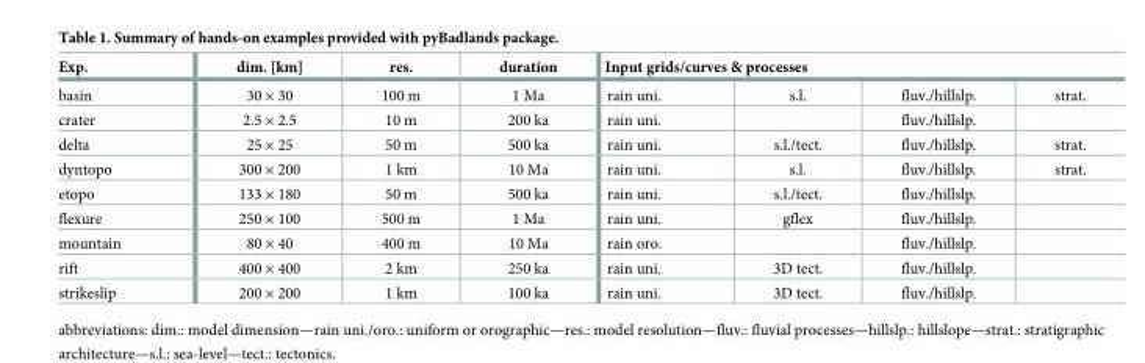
<table><thead><tr><td rowspan="2">Exp. basin</td><td rowspan="2">dim. [km] 30 × 30</td><td rowspan="2">res. 100 m</td><td rowspan="2">duration 1 Ma</td><td colspan="4">Input grids/curves &amp; processes</td></tr><tr><td>rain uni.</td><td>s.l.</td><td>fluv./hillslp.</td><td>strat.</td></tr></thead><tbody><tr><td>crater</td><td>2.5 × 2.5</td><td>10 m</td><td>200 ka</td><td>rain uni.</td><td></td><td>fluv./hillslp.</td><td></td></tr><tr><td>delta</td><td>25 × 25</td><td>50 m</td><td>500 ka</td><td>rain uni.</td><td>s.l./tect.</td><td>fluv./hillslp.</td><td>strat.</td></tr><tr><td>dyntopo</td><td>300 × 200</td><td>1 km</td><td>10 Ma</td><td>rain uni.</td><td>s.l.</td><td>fluv./hillslp.</td><td>strat.</td></tr><tr><td>etopo</td><td>133 × 180</td><td>50 m</td><td>500 ka</td><td>rain uni.</td><td>s.l./tect.</td><td>fluv./hillslp.</td><td></td></tr><tr><td>flexure</td><td>250 × 100</td><td>500 m</td><td>1 Ma</td><td>rain uni.</td><td>gflex</td><td>fluv./hillslp.</td><td></td></tr><tr><td>mountain</td><td>80 × 40</td><td>400 m</td><td>10 Ma</td><td>rain oro.</td><td></td><td>fluv./hillslp.</td><td></td></tr><tr><td>rift</td><td>400 × 400</td><td>2 km</td><td>250 ka</td><td>rain uni.</td><td>3D tect.</td><td>fluv./hillslp.</td><td></td></tr><tr><td>strikeslip</td><td>200 × 200</td><td>1 km</td><td>100 ka</td><td>rain uni.</td><td>3D tect.</td><td>fluv./hillslp.</td><td></td></tr></tbody></table>